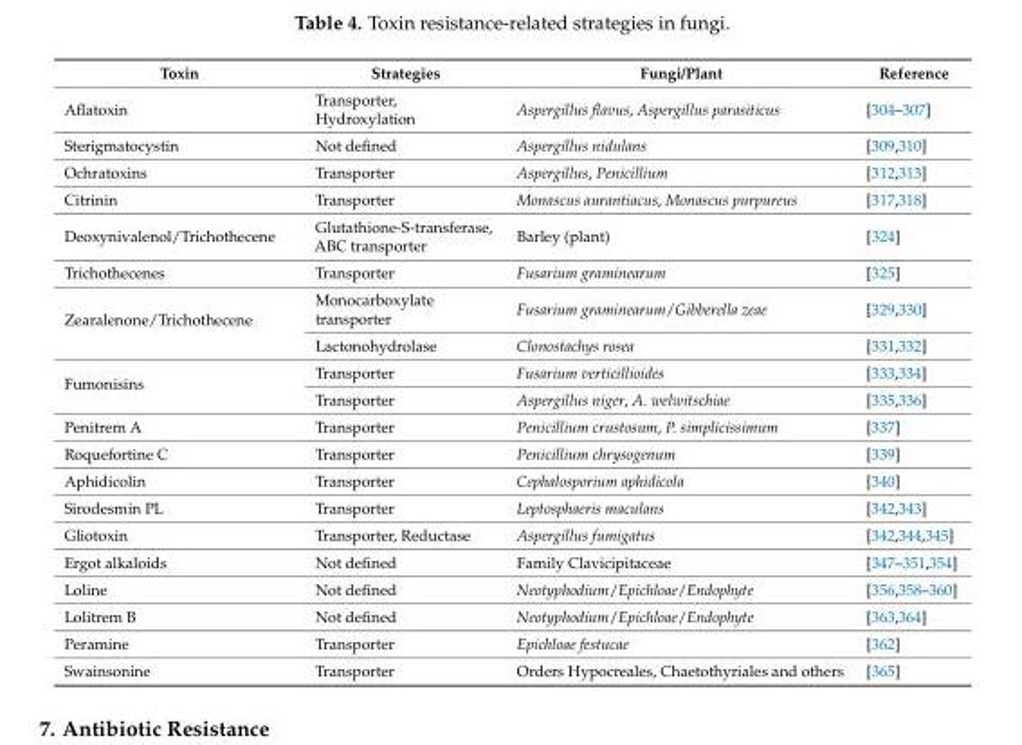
<table><thead><tr><td>Toxin</td><td>Strategies</td><td>Fungi/Plant</td><td>Reference</td></tr></thead><tbody><tr><td>Aflatoxin</td><td>Transporter, Hydroxylation</td><td>Aspergillus flavus, Aspergillus parasiticus</td><td>[304–307]</td></tr><tr><td>Sterigmatocystin</td><td>Not defined</td><td>Aspergillus nidulans</td><td>[309,310]</td></tr><tr><td>Ochratoxins</td><td>Transporter</td><td>Aspergillus, Penicillium</td><td>[312,313]</td></tr><tr><td>Citrinin</td><td>Transporter</td><td>Monascus aurantiacus, Monascus purpureus</td><td>[317,318]</td></tr><tr><td>Deoxynivalenol/Trichothecene</td><td>Glutathione-S-transferase, ABC transporter</td><td>Barley (plant)</td><td>[324]</td></tr><tr><td>Trichothecenes</td><td>Transporter</td><td>Fusarium graminearum</td><td>[325]</td></tr><tr><td rowspan="2">Zearalenone/Trichothecene</td><td>Monocarboxylate transporter</td><td>Fusarium graminearum/Gibberella zeae</td><td>[329,330]</td></tr><tr><td>Lactonohydrolase</td><td>Clonostachys rosea</td><td>[331,332]</td></tr><tr><td rowspan="2">Fumonisins</td><td>Transporter</td><td>Fusarium verticillioides</td><td>[333,334]</td></tr><tr><td>Transporter</td><td>Aspergillus niger, A. welwitschiae</td><td>[335,336]</td></tr><tr><td>Penitrem A</td><td>Transporter</td><td>Penicillium crustosum, P. simplicissimum</td><td>[337]</td></tr><tr><td>Roquefortine C</td><td>Transporter</td><td>Penicillium chrysogenum</td><td>[339]</td></tr><tr><td>Aphidicolin</td><td>Transporter</td><td>Cephalosporium aphidicola</td><td>[340]</td></tr><tr><td>Sirodesmin PL</td><td>Transporter</td><td>Leptosphaeris maculans</td><td>[342,343]</td></tr><tr><td>Gliotoxin</td><td>Transporter, Reductase</td><td>Aspergillus fumigatus</td><td>[342,344,345]</td></tr><tr><td>Ergot alkaloids</td><td>Not defined</td><td>Family Clavicipitaceae</td><td>[347–351,354]</td></tr><tr><td>Loline</td><td>Not defined</td><td>Neotyphodium/Epichloae/Endophyte</td><td>[356,358–360]</td></tr><tr><td>Lolitrem B</td><td>Not defined</td><td>Neotyphodium/Epichloae/Endophyte</td><td>[363,364]</td></tr><tr><td>Peramine</td><td>Transporter</td><td>Epichloae festucae</td><td>[362]</td></tr><tr><td>Swainsonine</td><td>Transporter</td><td>Orders Hypocreales, Chaetothyriales and others</td><td>[365]</td></tr></tbody></table>